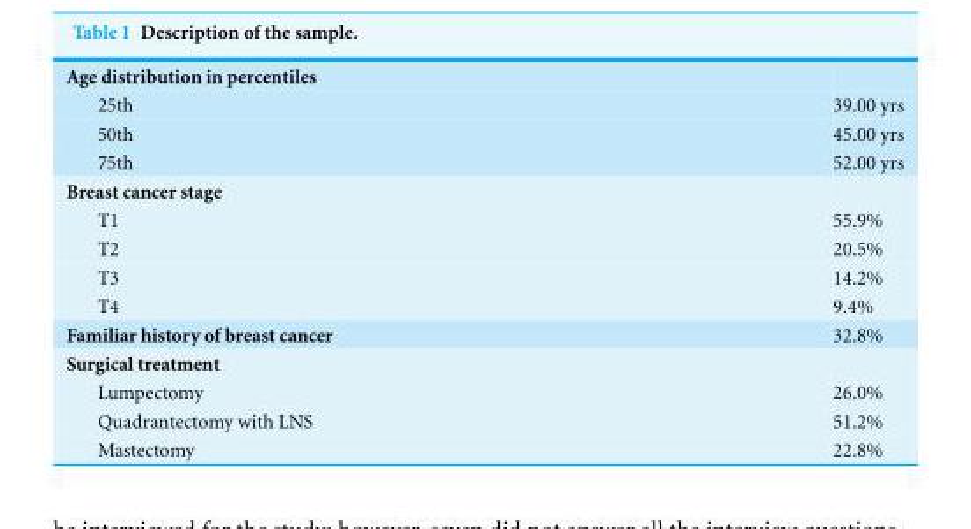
<table><tbody><tr><td colspan="2">Age distribution in percentiles</td></tr><tr><td>25th</td><td>39.00 yrs</td></tr><tr><td>50th</td><td>45.00 yrs</td></tr><tr><td>75th</td><td>52.00 yrs</td></tr><tr><td colspan="2">Breast cancer stage</td></tr><tr><td>T1</td><td>55.9%</td></tr><tr><td>T2</td><td>20.5%</td></tr><tr><td>T3</td><td>14.2%</td></tr><tr><td>T4</td><td>9.4%</td></tr><tr><td>Familiar history of breast cancer</td><td>32.8%</td></tr><tr><td colspan="2">Surgical treatment</td></tr><tr><td>Lumpectomy</td><td>26.0%</td></tr><tr><td>Quadrantectomy with LNS</td><td>51.2%</td></tr><tr><td>Mastectomy</td><td>22.8%</td></tr></tbody></table>